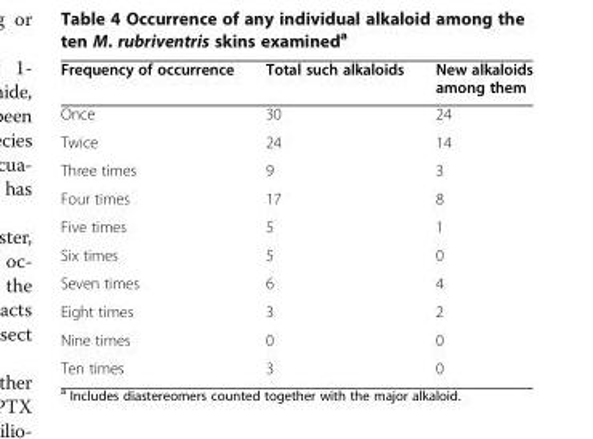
<table><thead><tr><td>Frequency of occurrence</td><td>Total such alkaloids</td><td>New alkaloids among them</td></tr></thead><tbody><tr><td>Once</td><td>30</td><td>24</td></tr><tr><td>Twice</td><td>24</td><td>14</td></tr><tr><td>Three times</td><td>9</td><td>3</td></tr><tr><td>Four times</td><td>17</td><td>8</td></tr><tr><td>Five times</td><td>5</td><td>1</td></tr><tr><td>Six times</td><td>5</td><td>0</td></tr><tr><td>Seven times</td><td>6</td><td>4</td></tr><tr><td>Eight times</td><td>3</td><td>2</td></tr><tr><td>Nine times</td><td>0</td><td>0</td></tr><tr><td>Ten times</td><td>3</td><td>0</td></tr></tbody></table>